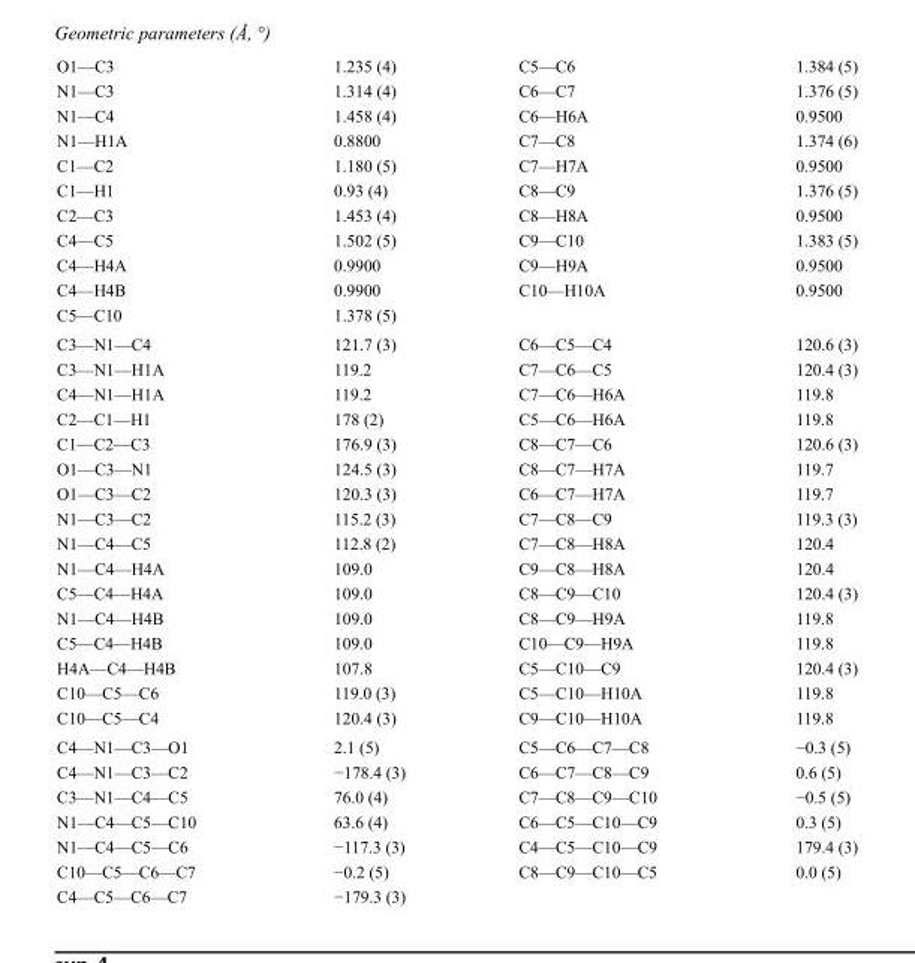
<table><tbody><tr><td>O1—C3</td><td>1.235 (4)</td><td>C5—C6</td><td>1.384 (5)</td></tr><tr><td>N1—C3</td><td>1.314 (4)</td><td>C6—C7</td><td>1.376 (5)</td></tr><tr><td>N1—C4</td><td>1.458 (4)</td><td>C6—H6A</td><td>0.9500</td></tr><tr><td>N1—H1A</td><td>0.8800</td><td>C7—C8</td><td>1.374 (6)</td></tr><tr><td>C1—C2</td><td>1.180 (5)</td><td>C7—H7A</td><td>0.9500</td></tr><tr><td>C1—H1</td><td>0.93 (4)</td><td>C8—C9</td><td>1.376 (5)</td></tr><tr><td>C2—C3</td><td>1.453 (4)</td><td>C8—H8A</td><td>0.9500</td></tr><tr><td>C4—C5</td><td>1.502 (5)</td><td>C9—C10</td><td>1.383 (5)</td></tr><tr><td>C4—H4A</td><td>0.9900</td><td>C9—H9A</td><td>0.9500</td></tr><tr><td>C4—H4B</td><td>0.9900</td><td>C10—H10A</td><td>0.9500</td></tr><tr><td>C5—C10</td><td>1.378 (5)</td><td></td><td></td></tr><tr><td>C3—N1—C4</td><td>121.7 (3)</td><td>C6—C5—C4</td><td>120.6 (3)</td></tr><tr><td>C3—N1—H1A</td><td>119.2</td><td>C7—C6—C5</td><td>120.4 (3)</td></tr><tr><td>C4—N1—H1A</td><td>119.2</td><td>C7—C6—H6A</td><td>119.8</td></tr><tr><td>C2—C1—H1</td><td>178 (2)</td><td>C5—C6—H6A</td><td>119.8</td></tr><tr><td>C1—C2—C3</td><td>176.9 (3)</td><td>C8—C7—C6</td><td>120.6 (3)</td></tr><tr><td>O1—C3—N1</td><td>124.5 (3)</td><td>C8—C7—H7A</td><td>119.7</td></tr><tr><td>O1—C3—C2</td><td>120.3 (3)</td><td>C6—C7—H7A</td><td>119.7</td></tr><tr><td>N1—C3—C2</td><td>115.2 (3)</td><td>C7—C8—C9</td><td>119.3 (3)</td></tr><tr><td>N1—C4—C5</td><td>112.8 (2)</td><td>C7—C8—H8A</td><td>120.4</td></tr><tr><td>N1—C4—H4A</td><td>109.0</td><td>C9—C8—H8A</td><td>120.4</td></tr><tr><td>C5—C4—H4A</td><td>109.0</td><td>C8—C9—C10</td><td>120.4 (3)</td></tr><tr><td>N1—C4—H4B</td><td>109.0</td><td>C8—C9—H9A</td><td>119.8</td></tr><tr><td>C5—C4—H4B</td><td>109.0</td><td>C10—C9—H9A</td><td>119.8</td></tr><tr><td>H4A—C4—H4B</td><td>107.8</td><td>C5—C10—C9</td><td>120.4 (3)</td></tr><tr><td>C10—C5—C6</td><td>119.0 (3)</td><td>C5—C10—H10A</td><td>119.8</td></tr><tr><td>C10—C5—C4</td><td>120.4 (3)</td><td>C9—C10—H10A</td><td>119.8</td></tr><tr><td>C4—N1—C3—O1</td><td>2.1 (5)</td><td>C5—C6—C7—C8</td><td>−0.3 (5)</td></tr><tr><td>C4—N1—C3—C2</td><td>−178.4 (3)</td><td>C6—C7—C8—C9</td><td>0.6 (5)</td></tr><tr><td>C3—N1—C4—C5</td><td>76.0 (4)</td><td>C7—C8—C9—C10</td><td>−0.5 (5)</td></tr><tr><td>N1—C4—C5—C10</td><td>63.6 (4)</td><td>C6—C5—C10—C9</td><td>0.3 (5)</td></tr><tr><td>N1—C4—C5—C6</td><td>−117.3 (3)</td><td>C4—C5—C10—C9</td><td>179.4 (3)</td></tr><tr><td>C10—C5—C6—C7</td><td>−0.2 (5)</td><td>C8—C9—C10—C5</td><td>0.0 (5)</td></tr><tr><td>C4—C5—C6—C7</td><td>−179.3 (3)</td><td></td><td></td></tr></tbody></table>